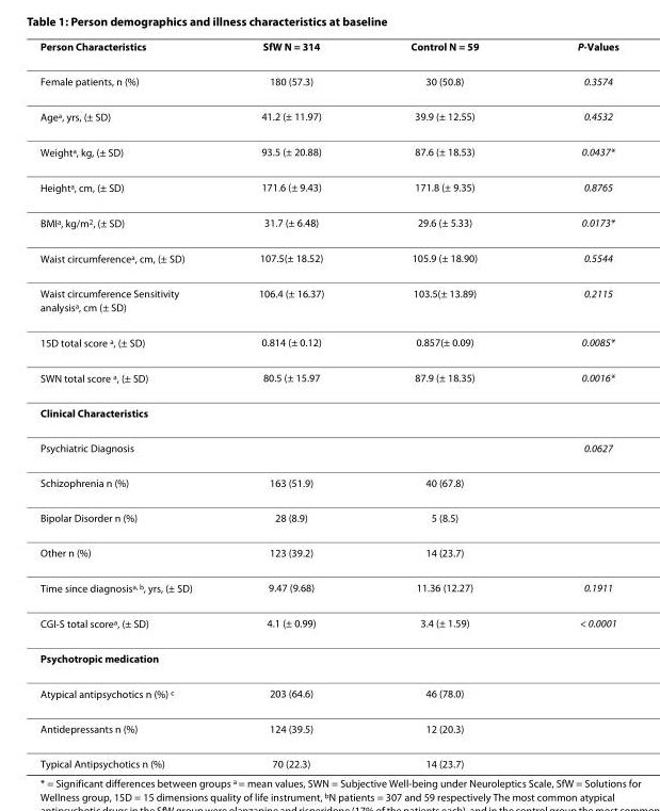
<table><thead><tr><td>Person Characteristics</td><td>SfW N = 314</td><td>Control N = 59</td><td>P-Values</td></tr></thead><tbody><tr><td>Female patients, n (%)</td><td>180 (57.3)</td><td>30 (50.8)</td><td>0.3574</td></tr><tr><td>Age<sup>a</sup>, yrs, (± SD)</td><td>41.2 (± 11.97)</td><td>39.9 (± 12.55)</td><td>0.4532</td></tr><tr><td>Weight<sup>a</sup>, kg, (± SD)</td><td>93.5 (± 20.88)</td><td>87.6 (± 18.53)</td><td>0.0437*</td></tr><tr><td>Height<sup>a</sup>, cm, (± SD)</td><td>171.6 (± 9.43)</td><td>171.8 (± 9.35)</td><td>0.8765</td></tr><tr><td>BMI<sup>a</sup>, kg/m<sup>2</sup>, (± SD)</td><td>31.7 (± 6.48)</td><td>29.6 (± 5.33)</td><td>0.0173*</td></tr><tr><td>Waist circumference<sup>a</sup>, cm, (± SD)</td><td>107.5(± 18.52)</td><td>105.9 (± 18.90)</td><td>0.5544</td></tr><tr><td>Waist circumference Sensitivity analysis<sup>a</sup>, cm (± SD)</td><td>106.4 (± 16.37)</td><td>103.5(± 13.89)</td><td>0.2115</td></tr><tr><td>15D total score <sup>a</sup>, (± SD)</td><td>0.814 (± 0.12)</td><td>0.857(± 0.09)</td><td>0.0085*</td></tr><tr><td>SWN total score <sup>a</sup>, (± SD)</td><td>80.5 (± 15.97</td><td>87.9 (± 18.35)</td><td>0.0016*</td></tr><tr><td colspan="4">Clinical Characteristics</td></tr><tr><td>Psychiatric Diagnosis</td><td></td><td></td><td>0.0627</td></tr><tr><td>Schizophrenia n (%)</td><td>163 (51.9)</td><td>40 (67.8)</td><td></td></tr><tr><td>Bipolar Disorder n (%)</td><td>28 (8.9)</td><td>5 (8.5)</td><td></td></tr><tr><td>Other n (%)</td><td>123 (39.2)</td><td>14 (23.7)</td><td></td></tr><tr><td>Time since diagnosis<sup>a, b</sup>, yrs, (± SD)</td><td>9.47 (9.68)</td><td>11.36 (12.27)</td><td>0.1911</td></tr><tr><td>CGI-S total score<sup>a</sup>, (± SD)</td><td>4.1 (± 0.99)</td><td>3.4 (± 1.59)</td><td>&lt; 0.0001</td></tr><tr><td colspan="4">Psychotropic medication</td></tr><tr><td>Atypical antipsychotics n (%) <sup>c</sup></td><td>203 (64.6)</td><td>46 (78.0)</td><td></td></tr><tr><td>Antidepressants n (%)</td><td>124 (39.5)</td><td>12 (20.3)</td><td></td></tr><tr><td>Typical Antipsychotics n (%)</td><td>70 (22.3)</td><td>14 (23.7)</td><td></td></tr></tbody></table>